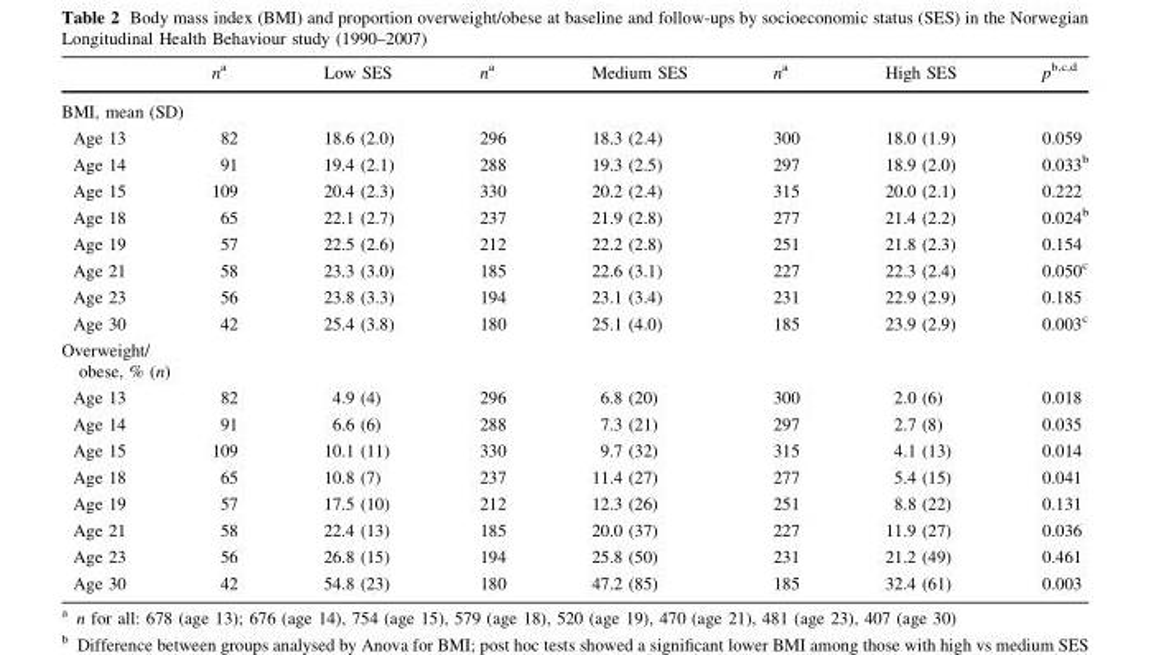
<table><thead><tr><td></td><td>n<sup>a</sup></td><td>Low SES</td><td>n<sup>a</sup></td><td>Medium SES</td><td>n<sup>a</sup></td><td>High SES</td><td>p<sup>b,c,d</sup></td></tr></thead><tbody><tr><td colspan="8">BMI, mean (SD)</td></tr><tr><td>Age 13</td><td>82</td><td>18.6 (2.0)</td><td>296</td><td>18.3 (2.4)</td><td>300</td><td>18.0 (1.9)</td><td>0.059</td></tr><tr><td>Age 14</td><td>91</td><td>19.4 (2.1)</td><td>288</td><td>19.3 (2.5)</td><td>297</td><td>18.9 (2.0)</td><td>0.033<sup>b</sup></td></tr><tr><td>Age 15</td><td>109</td><td>20.4 (2.3)</td><td>330</td><td>20.2 (2.4)</td><td>315</td><td>20.0 (2.1)</td><td>0.222</td></tr><tr><td>Age 18</td><td>65</td><td>22.1 (2.7)</td><td>237</td><td>21.9 (2.8)</td><td>277</td><td>21.4 (2.2)</td><td>0.024<sup>b</sup></td></tr><tr><td>Age 19</td><td>57</td><td>22.5 (2.6)</td><td>212</td><td>22.2 (2.8)</td><td>251</td><td>21.8 (2.3)</td><td>0.154</td></tr><tr><td>Age 21</td><td>58</td><td>23.3 (3.0)</td><td>185</td><td>22.6 (3.1)</td><td>227</td><td>22.3 (2.4)</td><td>0.050<sup>c</sup></td></tr><tr><td>Age 23</td><td>56</td><td>23.8 (3.3)</td><td>194</td><td>23.1 (3.4)</td><td>231</td><td>22.9 (2.9)</td><td>0.185</td></tr><tr><td>Age 30</td><td>42</td><td>25.4 (3.8)</td><td>180</td><td>25.1 (4.0)</td><td>185</td><td>23.9 (2.9)</td><td>0.003<sup>c</sup></td></tr><tr><td colspan="8">Overweight/ obese, % (n)</td></tr><tr><td>Age 13</td><td>82</td><td>4.9 (4)</td><td>296</td><td>6.8 (20)</td><td>300</td><td>2.0 (6)</td><td>0.018</td></tr><tr><td>Age 14</td><td>91</td><td>6.6 (6)</td><td>288</td><td>7.3 (21)</td><td>297</td><td>2.7 (8)</td><td>0.035</td></tr><tr><td>Age 15</td><td>109</td><td>10.1 (11)</td><td>330</td><td>9.7 (32)</td><td>315</td><td>4.1 (13)</td><td>0.014</td></tr><tr><td>Age 18</td><td>65</td><td>10.8 (7)</td><td>237</td><td>11.4 (27)</td><td>277</td><td>5.4 (15)</td><td>0.041</td></tr><tr><td>Age 19</td><td>57</td><td>17.5 (10)</td><td>212</td><td>12.3 (26)</td><td>251</td><td>8.8 (22)</td><td>0.131</td></tr><tr><td>Age 21</td><td>58</td><td>22.4 (13)</td><td>185</td><td>20.0 (37)</td><td>227</td><td>11.9 (27)</td><td>0.036</td></tr><tr><td>Age 23</td><td>56</td><td>26.8 (15)</td><td>194</td><td>25.8 (50)</td><td>231</td><td>21.2 (49)</td><td>0.461</td></tr><tr><td>Age 30</td><td>42</td><td>54.8 (23)</td><td>180</td><td>47.2 (85)</td><td>185</td><td>32.4 (61)</td><td>0.003</td></tr></tbody></table>